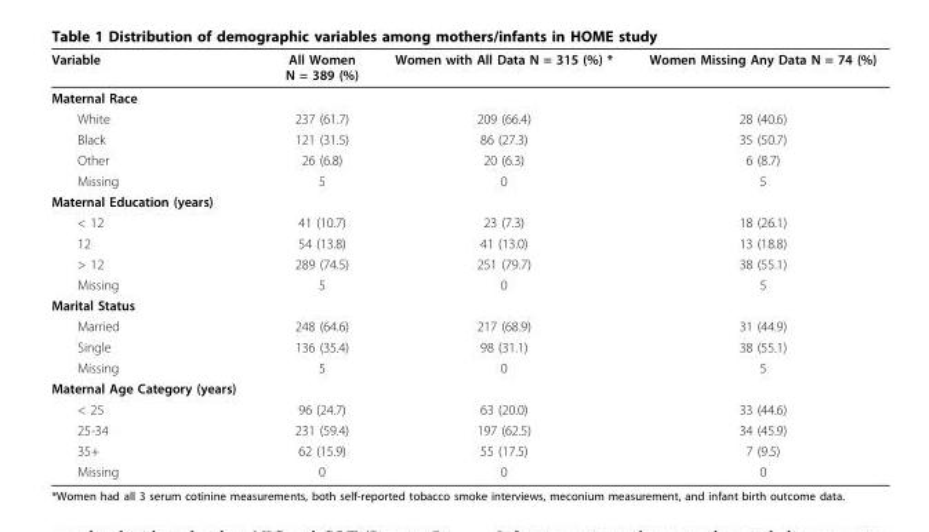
<table><thead><tr><td>Variable</td><td>All Women N = 389 (%)</td><td>Women with All Data N = 315 (%) *</td><td>Women Missing Any Data N = 74 (%)</td></tr></thead><tbody><tr><td colspan="4">Maternal Race</td></tr><tr><td>White</td><td>237 (61.7)</td><td>209 (66.4)</td><td>28 (40.6)</td></tr><tr><td>Black</td><td>121 (31.5)</td><td>86 (27.3)</td><td>35 (50.7)</td></tr><tr><td>Other</td><td>26 (6.8)</td><td>20 (6.3)</td><td>6 (8.7)</td></tr><tr><td>Missing</td><td>5</td><td>0</td><td>5</td></tr><tr><td colspan="4">Maternal Education (years)</td></tr><tr><td>&lt; 12</td><td>41 (10.7)</td><td>23 (7.3)</td><td>18 (26.1)</td></tr><tr><td>12</td><td>54 (13.8)</td><td>41 (13.0)</td><td>13 (18.8)</td></tr><tr><td>&gt; 12</td><td>289 (74.5)</td><td>251 (79.7)</td><td>38 (55.1)</td></tr><tr><td>Missing</td><td>5</td><td>0</td><td>5</td></tr><tr><td colspan="4">Marital Status</td></tr><tr><td>Married</td><td>248 (64.6)</td><td>217 (68.9)</td><td>31 (44.9)</td></tr><tr><td>Single</td><td>136 (35.4)</td><td>98 (31.1)</td><td>38 (55.1)</td></tr><tr><td>Missing</td><td>5</td><td>0</td><td>5</td></tr><tr><td colspan="4">Maternal Age Category (years)</td></tr><tr><td>&lt; 25</td><td>96 (24.7)</td><td>63 (20.0)</td><td>33 (44.6)</td></tr><tr><td>25-34</td><td>231 (59.4)</td><td>197 (62.5)</td><td>34 (45.9)</td></tr><tr><td>35+</td><td>62 (15.9)</td><td>55 (17.5)</td><td>7 (9.5)</td></tr><tr><td>Missing</td><td>0</td><td>0</td><td>0</td></tr></tbody></table>